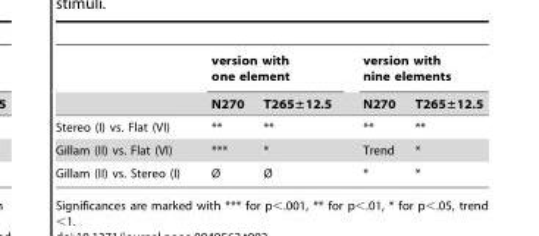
<table><thead><tr><td rowspan="2"></td><td colspan="2">version with one element</td><td colspan="2">version with nine elements</td></tr><tr><td>N270</td><td>T265±12.5</td><td>N270</td><td>T265±12.5</td></tr></thead><tbody><tr><td>Stereo (I) vs. Flat (VI)</td><td>**</td><td>**</td><td>**</td><td>**</td></tr><tr><td>Gillam (II) vs. Flat (VI)</td><td>***</td><td>*</td><td>Trend</td><td>*</td></tr><tr><td>Gillam (II) vs. Stereo (I)</td><td>Ø</td><td>Ø</td><td>*</td><td>*</td></tr></tbody></table>